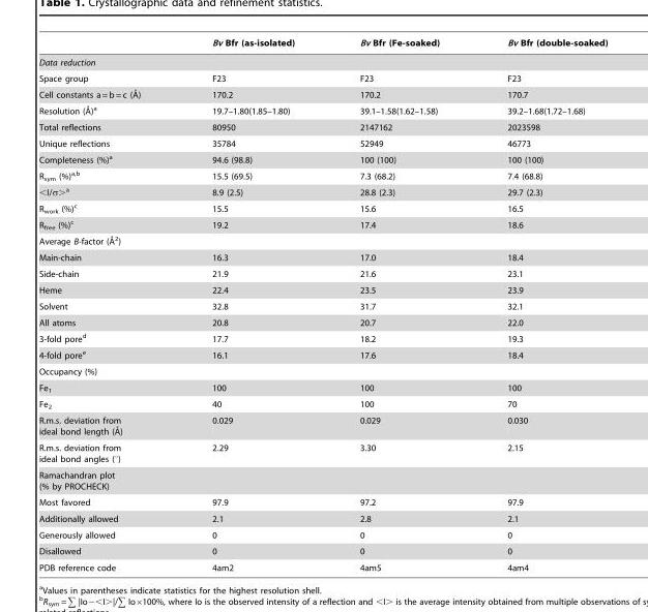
<table><thead><tr><td></td><td>Bv Bfr (as-isolated)</td><td>Bv Bfr (Fe-soaked)</td><td>Bv Bfr (double-soaked)</td></tr></thead><tbody><tr><td colspan="4">Data reduction</td></tr><tr><td>Space group</td><td>F23</td><td>F23</td><td>F23</td></tr><tr><td>Cell constants a = b = c (A˚)</td><td>170.2</td><td>170.2</td><td>170.7</td></tr><tr><td>Resolution (A˚)a</td><td>19.7–1.80(1.85–1.80)</td><td>39.1–1.58(1.62–1.58)</td><td>39.2–1.68(1.72–1.68)</td></tr><tr><td>Total reflections</td><td>80950</td><td>2147162</td><td>2023598</td></tr><tr><td>Unique reflections</td><td>35784</td><td>52949</td><td>46773</td></tr><tr><td>Completeness (%)<sup>a</sup></td><td>94.6 (98.8)</td><td>100 (100)</td><td>100 (100)</td></tr><tr><td>R<sub>sym</sub> (%)a,b</td><td>15.5 (69.5)</td><td>7.3 (68.2)</td><td>7.4 (68.8)</td></tr><tr><td>&lt;I/σ&gt;<sup>a</sup></td><td>8.9 (2.5)</td><td>28.8 (2.3)</td><td>29.7 (2.3)</td></tr><tr><td>R<sub>work</sub> (%)<sup>c</sup></td><td>15.5</td><td>15.6</td><td>16.5</td></tr><tr><td>R<sub>free</sub> (%)<sup>c</sup></td><td>19.2</td><td>17.4</td><td>18.6</td></tr><tr><td colspan="4">Average B-factor (A˚ 2)</td></tr><tr><td>Main-chain</td><td>16.3</td><td>17.0</td><td>18.4</td></tr><tr><td>Side-chain</td><td>21.9</td><td>21.6</td><td>23.1</td></tr><tr><td>Heme</td><td>22.4</td><td>23.5</td><td>23.9</td></tr><tr><td>Solvent</td><td>32.8</td><td>31.7</td><td>32.1</td></tr><tr><td>All atoms</td><td>20.8</td><td>20.7</td><td>22.0</td></tr><tr><td>3-fold pore<sup>d</sup></td><td>17.7</td><td>18.2</td><td>19.3</td></tr><tr><td>4-fold pore<sup>e</sup></td><td>16.1</td><td>17.6</td><td>18.4</td></tr><tr><td colspan="4">Occupancy (%)</td></tr><tr><td>Fe<sub>1</sub></td><td>100</td><td>100</td><td>100</td></tr><tr><td>Fe<sub>2</sub></td><td>40</td><td>100</td><td>70</td></tr><tr><td>R.m.s. deviation from ideal bond length (A˚)</td><td>0.029</td><td>0.029</td><td>0.030</td></tr><tr><td>R.m.s. deviation from ideal bond angles (°)</td><td>2.29</td><td>3.30</td><td>2.15</td></tr><tr><td colspan="4">Ramachandran plot (% by PROCHECK)</td></tr><tr><td>Most favored</td><td>97.9</td><td>97.2</td><td>97.9</td></tr><tr><td>Additionally allowed</td><td>2.1</td><td>2.8</td><td>2.1</td></tr><tr><td>Generously allowed</td><td>0</td><td>0</td><td>0</td></tr><tr><td>Disallowed</td><td>0</td><td>0</td><td>0</td></tr><tr><td>PDB reference code</td><td>4am2</td><td>4am5</td><td>4am4</td></tr></tbody></table>